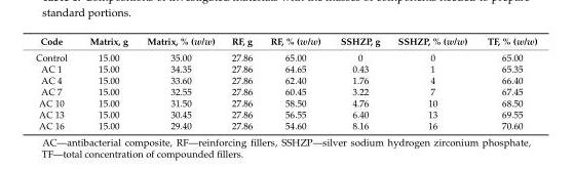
<table><thead><tr><td>Code</td><td>Matrix, g</td><td>Matrix, % (w/w)</td><td>RF, g</td><td>RF, % (w/w)</td><td>SSHZP, g</td><td>SSHZP, % (w/w)</td><td>TF, % (w/w)</td></tr></thead><tbody><tr><td>Control</td><td>15.00</td><td>35.00</td><td>27.86</td><td>65.00</td><td>0</td><td>0</td><td>65.00</td></tr><tr><td>AC 1</td><td>15.00</td><td>34.35</td><td>27.86</td><td>64.65</td><td>0.43</td><td>1</td><td>65.35</td></tr><tr><td>AC 4</td><td>15.00</td><td>33.60</td><td>27.86</td><td>62.40</td><td>1.76</td><td>4</td><td>66.40</td></tr><tr><td>AC 7</td><td>15.00</td><td>32.55</td><td>27.86</td><td>60.45</td><td>3.22</td><td>7</td><td>67.45</td></tr><tr><td>AC 10</td><td>15.00</td><td>31.50</td><td>27.86</td><td>58.50</td><td>4.76</td><td>10</td><td>68.50</td></tr><tr><td>AC 13</td><td>15.00</td><td>30.45</td><td>27.86</td><td>56.55</td><td>6.40</td><td>13</td><td>69.55</td></tr><tr><td>AC 16</td><td>15.00</td><td>29.40</td><td>27.86</td><td>54.60</td><td>8.16</td><td>16</td><td>70.60</td></tr></tbody></table>